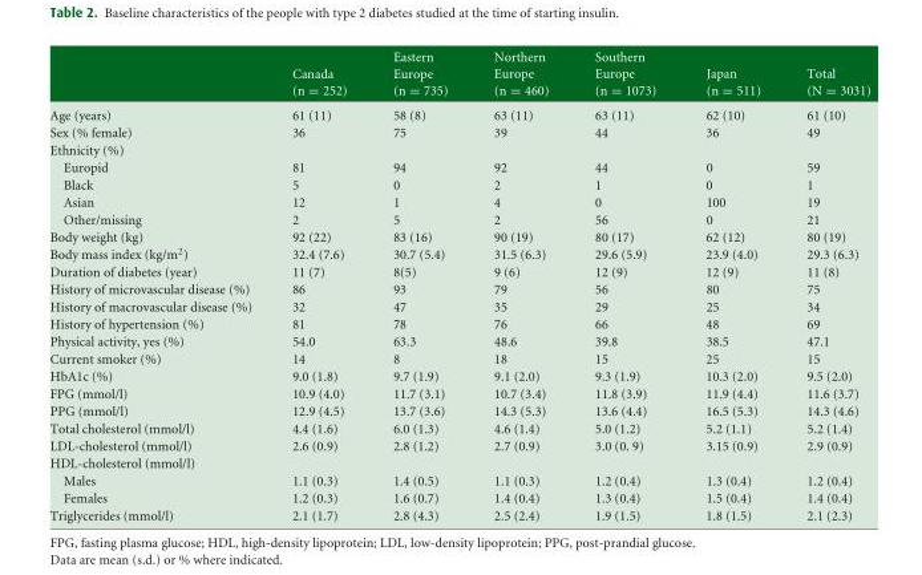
<table><thead><tr><td></td><td>Canada (n = 252)</td><td>Eastern Europe (n = 735)</td><td>Northern Europe (n = 460)</td><td>Southern Europe (n = 1073)</td><td>Japan (n = 511)</td><td>Total (N = 3031)</td></tr></thead><tbody><tr><td>Age (years)</td><td>61 (11)</td><td>58 (8)</td><td>63 (11)</td><td>63 (11)</td><td>62 (10)</td><td>61 (10)</td></tr><tr><td>Sex (% female)</td><td>36</td><td>75</td><td>39</td><td>44</td><td>36</td><td>49</td></tr><tr><td colspan="7">Ethnicity (%)</td></tr><tr><td>Europid</td><td>81</td><td>94</td><td>92</td><td>44</td><td>0</td><td>59</td></tr><tr><td>Black</td><td>5</td><td>0</td><td>2</td><td>1</td><td>0</td><td>1</td></tr><tr><td>Asian</td><td>12</td><td>1</td><td>4</td><td>0</td><td>100</td><td>19</td></tr><tr><td>Other/missing</td><td>2</td><td>5</td><td>2</td><td>56</td><td>0</td><td>21</td></tr><tr><td>Body weight (kg)</td><td>92 (22)</td><td>83 (16)</td><td>90 (19)</td><td>80 (17)</td><td>62 (12)</td><td>80 (19)</td></tr><tr><td>Body mass index (kg/m<sup>2</sup>)</td><td>32.4 (7.6)</td><td>30.7 (5.4)</td><td>31.5 (6.3)</td><td>29.6 (5.9)</td><td>23.9 (4.0)</td><td>29.3 (6.3)</td></tr><tr><td>Duration of diabetes (year)</td><td>11 (7)</td><td>8(5)</td><td>9 (6)</td><td>12 (9)</td><td>12 (9)</td><td>11 (8)</td></tr><tr><td>History of microvascular disease (%)</td><td>86</td><td>93</td><td>79</td><td>56</td><td>80</td><td>75</td></tr><tr><td>History of macrovascular disease (%)</td><td>32</td><td>47</td><td>35</td><td>29</td><td>25</td><td>34</td></tr><tr><td>History of hypertension (%)</td><td>81</td><td>78</td><td>76</td><td>66</td><td>48</td><td>69</td></tr><tr><td>Physical activity, yes (%)</td><td>54.0</td><td>63.3</td><td>48.6</td><td>39.8</td><td>38.5</td><td>47.1</td></tr><tr><td>Current smoker (%)</td><td>14</td><td>8</td><td>18</td><td>15</td><td>25</td><td>15</td></tr><tr><td>HbA1c (%)</td><td>9.0 (1.8)</td><td>9.7 (1.9)</td><td>9.1 (2.0)</td><td>9.3 (1.9)</td><td>10.3 (2.0)</td><td>9.5 (2.0)</td></tr><tr><td>FPG (mmol/l)</td><td>10.9 (4.0)</td><td>11.7 (3.1)</td><td>10.7 (3.4)</td><td>11.8 (3.9)</td><td>11.9 (4.4)</td><td>11.6 (3.7)</td></tr><tr><td>PPG (mmol/l)</td><td>12.9 (4.5)</td><td>13.7 (3.6)</td><td>14.3 (5.3)</td><td>13.6 (4.4)</td><td>16.5 (5.3)</td><td>14.3 (4.6)</td></tr><tr><td>Total cholesterol (mmol/l)</td><td>4.4 (1.6)</td><td>6.0 (1.3)</td><td>4.6 (1.4)</td><td>5.0 (1.2)</td><td>5.2 (1.1)</td><td>5.2 (1.4)</td></tr><tr><td>LDL-cholesterol (mmol/l)</td><td>2.6 (0.9)</td><td>2.8 (1.2)</td><td>2.7 (0.9)</td><td>3.0 (0. 9)</td><td>3.15 (0.9)</td><td>2.9 (0.9)</td></tr><tr><td colspan="7">HDL-cholesterol (mmol/l)</td></tr><tr><td>Males</td><td>1.1 (0.3)</td><td>1.4 (0.5)</td><td>1.1 (0.3)</td><td>1.2 (0.4)</td><td>1.3 (0.4)</td><td>1.2 (0.4)</td></tr><tr><td>Females</td><td>1.2 (0.3)</td><td>1.6 (0.7)</td><td>1.4 (0.4)</td><td>1.3 (0.4)</td><td>1.5 (0.4)</td><td>1.4 (0.4)</td></tr><tr><td>Triglycerides (mmol/l)</td><td>2.1 (1.7)</td><td>2.8 (4.3)</td><td>2.5 (2.4)</td><td>1.9 (1.5)</td><td>1.8 (1.5)</td><td>2.1 (2.3)</td></tr></tbody></table>